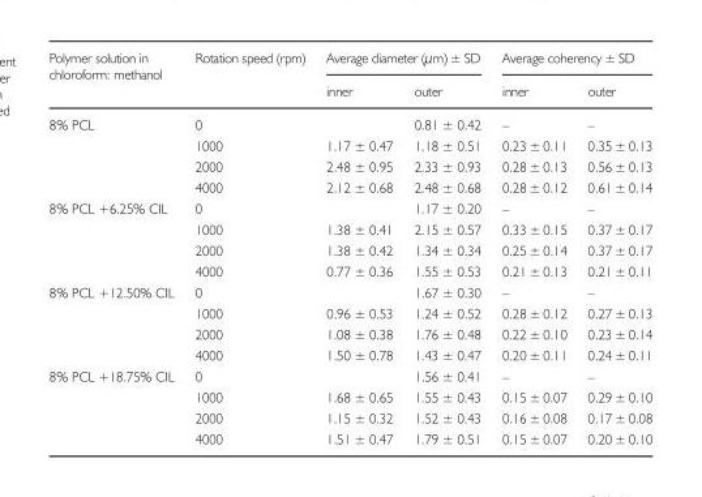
<table><thead><tr><td rowspan="2">Polymer solution in chloroform: methanol</td><td rowspan="2">Rotation speed (rpm)</td><td colspan="2">Average diameter (μm) ± SD</td><td colspan="2">Average coherency ± SD</td></tr><tr><td>inner</td><td>outer</td><td>inner</td><td>outer</td></tr></thead><tbody><tr><td rowspan="4">8% PCL</td><td>0</td><td></td><td>0.81 ± 0.42</td><td>–</td><td>–</td></tr><tr><td>1000</td><td>1.17 ± 0.47</td><td>1.18 ± 0.51</td><td>0.23 ± 0.11</td><td>0.35 ± 0.13</td></tr><tr><td>2000</td><td>2.48 ± 0.95</td><td>2.33 ± 0.93</td><td>0.28 ± 0.13</td><td>0.56 ± 0.13</td></tr><tr><td>4000</td><td>2.12 ± 0.68</td><td>2.48 ± 0.68</td><td>0.28 ± 0.12</td><td>0.61 ± 0.14</td></tr><tr><td rowspan="4">8% PCL +6.25% CIL</td><td>0</td><td></td><td>1.17 ± 0.20</td><td>–</td><td>–</td></tr><tr><td>1000</td><td>1.38 ± 0.41</td><td>2.15 ± 0.57</td><td>0.33 ± 0.15</td><td>0.37 ± 0.17</td></tr><tr><td>2000</td><td>1.38 ± 0.42</td><td>1.34 ± 0.34</td><td>0.25 ± 0.14</td><td>0.37 ± 0.17</td></tr><tr><td>4000</td><td>0.77 ± 0.36</td><td>1.55 ± 0.53</td><td>0.21 ± 0.13</td><td>0.21 ± 0.11</td></tr><tr><td rowspan="4">8% PCL +12.50% CIL</td><td>0</td><td></td><td>1.67 ± 0.30</td><td>–</td><td>–</td></tr><tr><td>1000</td><td>0.96 ± 0.53</td><td>1.24 ± 0.52</td><td>0.28 ± 0.12</td><td>0.27 ± 0.13</td></tr><tr><td>2000</td><td>1.08 ± 0.38</td><td>1.76 ± 0.48</td><td>0.22 ± 0.10</td><td>0.23 ± 0.14</td></tr><tr><td>4000</td><td>1.50 ± 0.78</td><td>1.43 ± 0.47</td><td>0.20 ± 0.11</td><td>0.24 ± 0.11</td></tr><tr><td rowspan="4">8% PCL +18.75% CIL</td><td>0</td><td></td><td>1.56 ± 0.41</td><td>–</td><td>–</td></tr><tr><td>1000</td><td>1.68 ± 0.65</td><td>1.55 ± 0.43</td><td>0.15 ± 0.07</td><td>0.29 ± 0.10</td></tr><tr><td>2000</td><td>1.15 ± 0.32</td><td>1.52 ± 0.43</td><td>0.16 ± 0.08</td><td>0.17 ± 0.08</td></tr><tr><td>4000</td><td>1.51 ± 0.47</td><td>1.79 ± 0.51</td><td>0.15 ± 0.07</td><td>0.20 ± 0.10</td></tr></tbody></table>